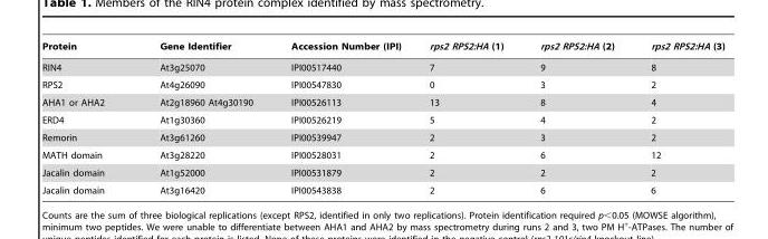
<table><thead><tr><td>Protein</td><td>Gene Identifier</td><td>Accession Number (IPI)</td><td>rps2 RPS2:HA (1)</td><td>rps2 RPS2:HA (2)</td><td>rps2 RPS2:HA (3)</td></tr></thead><tbody><tr><td>RIN4</td><td>At3g25070</td><td>IPI00517440</td><td>7</td><td>9</td><td>8</td></tr><tr><td>RPS2</td><td>At4g26090</td><td>IPI00547830</td><td>0</td><td>3</td><td>2</td></tr><tr><td>AHA1 or AHA2</td><td>At2g18960 At4g30190</td><td>IPI00526113</td><td>13</td><td>8</td><td>4</td></tr><tr><td>ERD4</td><td>At1g30360</td><td>IPI00526219</td><td>5</td><td>4</td><td>2</td></tr><tr><td>Remorin</td><td>At3g61260</td><td>IPI00539947</td><td>2</td><td>3</td><td>2</td></tr><tr><td>MATH domain</td><td>At3g28220</td><td>IPI00528031</td><td>2</td><td>6</td><td>12</td></tr><tr><td>Jacalin domain</td><td>At1g52000</td><td>IPI00531879</td><td>2</td><td>2</td><td>2</td></tr><tr><td>Jacalin domain</td><td>At3g16420</td><td>IPI00543838</td><td>2</td><td>6</td><td>6</td></tr></tbody></table>